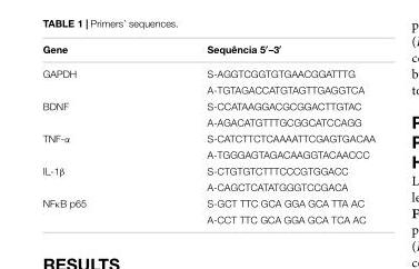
<table><thead><tr><td>Gene</td><td>Sequência 5′–3′</td></tr></thead><tbody><tr><td rowspan="2">GAPDH</td><td>S-AGGTCGGTGTGAACGGATTTG</td></tr><tr><td>A-TGTAGACCATGTAGTTGAGGTCA</td></tr><tr><td rowspan="2">BDNF</td><td>S-CCATAAGGACGCGGACTTGTAC</td></tr><tr><td>A-AGACATGTTTGCGGCATCCAGG</td></tr><tr><td rowspan="2">TNF-α</td><td>S-CATCTTCTCAAAATTCGAGTGACAA</td></tr><tr><td>A-TGGGAGTAGACAAGGTACAACCC</td></tr><tr><td rowspan="2">IL-1β</td><td>S-CTGTGTCTTTCCCGTGGACC</td></tr><tr><td>A-CAGCTCATATGGGTCCGACA</td></tr><tr><td rowspan="2">NFκB p65</td><td>S-GCT TTC GCA GGA GCA TTA AC</td></tr><tr><td>A-CCT TTC GCA GGA GCA TCA AC</td></tr></tbody></table>